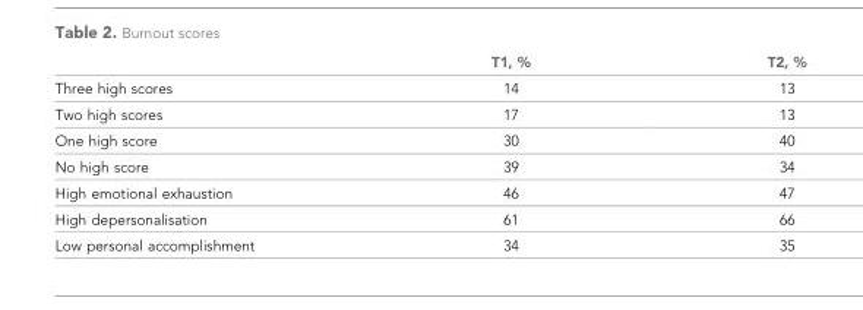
<table><thead><tr><td></td><td>T1, %</td><td>T2, %</td></tr></thead><tbody><tr><td>Three high scores</td><td>14</td><td>13</td></tr><tr><td>Two high scores</td><td>17</td><td>13</td></tr><tr><td>One high score</td><td>30</td><td>40</td></tr><tr><td>No high score</td><td>39</td><td>34</td></tr><tr><td>High emotional exhaustion</td><td>46</td><td>47</td></tr><tr><td>High depersonalisation</td><td>61</td><td>66</td></tr><tr><td>Low personal accomplishment</td><td>34</td><td>35</td></tr></tbody></table>